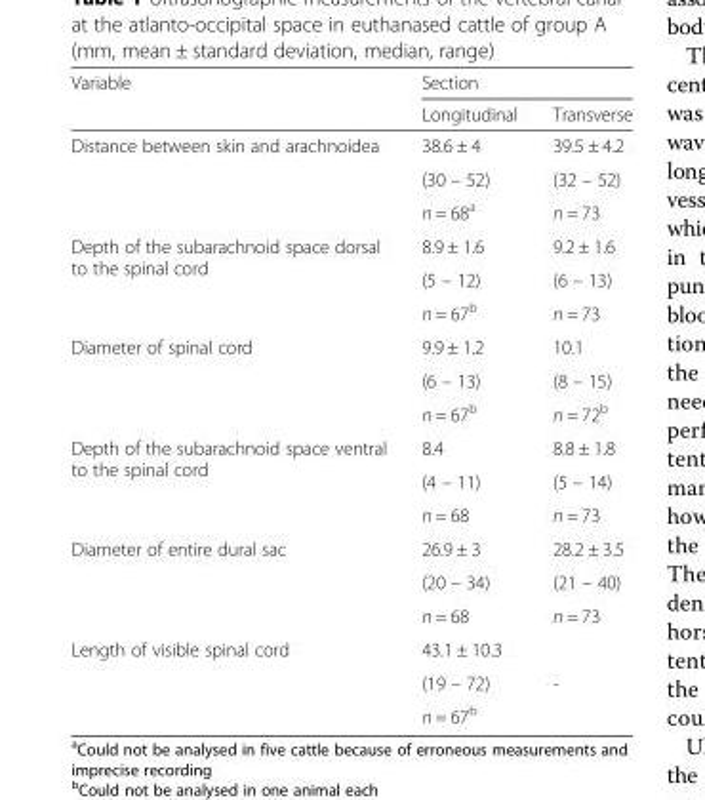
<table><thead><tr><td rowspan="2">Variable</td><td colspan="2">Section</td></tr><tr><td>Longitudinal</td><td>Transverse</td></tr></thead><tbody><tr><td rowspan="3">Distance between skin and arachnoidea</td><td>38.6 ± 4</td><td>39.5 ± 4.2</td></tr><tr><td>(30 – 52)</td><td>(32 – 52)</td></tr><tr><td>n = 68<sup>a</sup></td><td>n = 73</td></tr><tr><td rowspan="3">Depth of the subarachnoid space dorsal to the spinal cord</td><td>8.9 ± 1.6</td><td>9.2 ± 1.6</td></tr><tr><td>(5 – 12)</td><td>(6 – 13)</td></tr><tr><td>n = 67<sup>b</sup></td><td>n = 73</td></tr><tr><td rowspan="3">Diameter of spinal cord</td><td>9.9 ± 1.2</td><td>10.1</td></tr><tr><td>(6 – 13)</td><td>(8 – 15)</td></tr><tr><td>n = 67<sup>b</sup></td><td>n = 72<sup>b</sup></td></tr><tr><td rowspan="3">Depth of the subarachnoid space ventral to the spinal cord</td><td>8.4</td><td>8.8 ± 1.8</td></tr><tr><td>(4 – 11)</td><td>(5 – 14)</td></tr><tr><td>n = 68</td><td>n = 73</td></tr><tr><td rowspan="3">Diameter of entire dural sac</td><td>26.9 ± 3</td><td>28.2 ± 3.5</td></tr><tr><td>(20 – 34)</td><td>(21 – 40)</td></tr><tr><td>n = 68</td><td>n = 73</td></tr><tr><td rowspan="3">Length of visible spinal cord</td><td>43.1 ± 10.3</td><td></td></tr><tr><td>(19 – 72)</td><td>-</td></tr><tr><td>n = 67<sup>b</sup></td><td></td></tr></tbody></table>